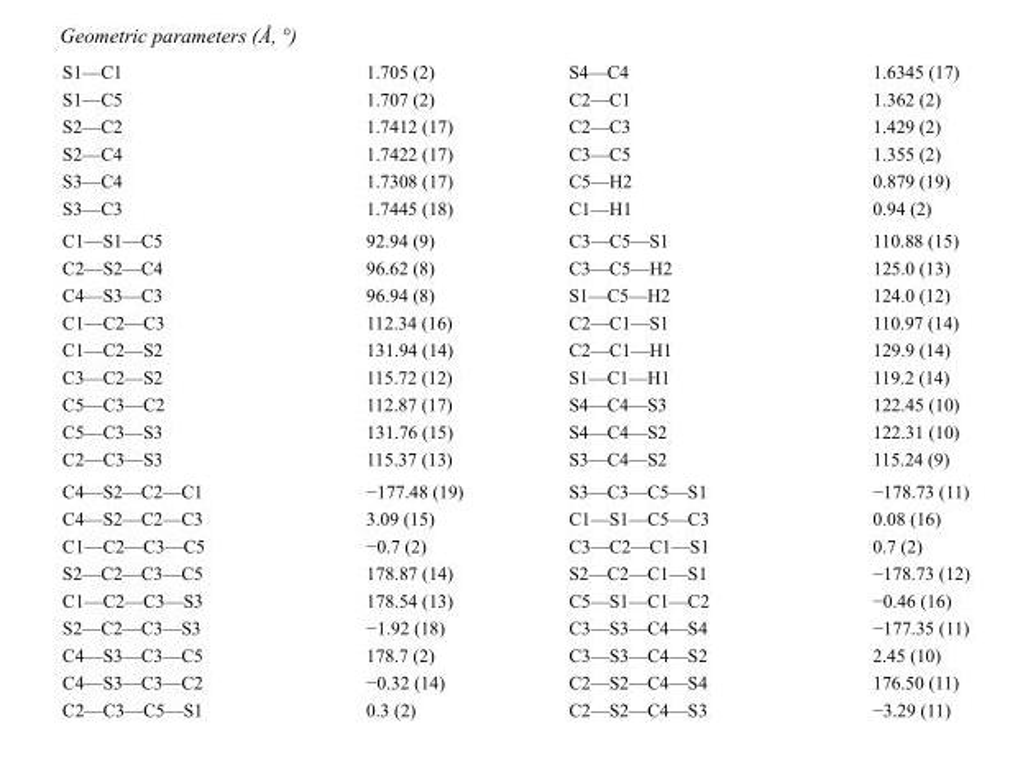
<table><tbody><tr><td>S1—C1</td><td>1.705 (2)</td><td>S4—C4</td><td>1.6345 (17)</td></tr><tr><td>S1—C5</td><td>1.707 (2)</td><td>C2—C1</td><td>1.362 (2)</td></tr><tr><td>S2—C2</td><td>1.7412 (17)</td><td>C2—C3</td><td>1.429 (2)</td></tr><tr><td>S2—C4</td><td>1.7422 (17)</td><td>C3—C5</td><td>1.355 (2)</td></tr><tr><td>S3—C4</td><td>1.7308 (17)</td><td>C5—H2</td><td>0.879 (19)</td></tr><tr><td>S3—C3</td><td>1.7445 (18)</td><td>C1—H1</td><td>0.94 (2)</td></tr><tr><td>C1—S1—C5</td><td>92.94 (9)</td><td>C3—C5—S1</td><td>110.88 (15)</td></tr><tr><td>C2—S2—C4</td><td>96.62 (8)</td><td>C3—C5—H2</td><td>125.0 (13)</td></tr><tr><td>C4—S3—C3</td><td>96.94 (8)</td><td>S1—C5—H2</td><td>124.0 (12)</td></tr><tr><td>C1—C2—C3</td><td>112.34 (16)</td><td>C2—C1—S1</td><td>110.97 (14)</td></tr><tr><td>C1—C2—S2</td><td>131.94 (14)</td><td>C2—C1—H1</td><td>129.9 (14)</td></tr><tr><td>C3—C2—S2</td><td>115.72 (12)</td><td>S1—C1—H1</td><td>119.2 (14)</td></tr><tr><td>C5—C3—C2</td><td>112.87 (17)</td><td>S4—C4—S3</td><td>122.45 (10)</td></tr><tr><td>C5—C3—S3</td><td>131.76 (15)</td><td>S4—C4—S2</td><td>122.31 (10)</td></tr><tr><td>C2—C3—S3</td><td>115.37 (13)</td><td>S3—C4—S2</td><td>115.24 (9)</td></tr><tr><td>C4—S2—C2—C1</td><td>−177.48 (19)</td><td>S3—C3—C5—S1</td><td>−178.73 (11)</td></tr><tr><td>C4—S2—C2—C3</td><td>3.09 (15)</td><td>C1—S1—C5—C3</td><td>0.08 (16)</td></tr><tr><td>C1—C2—C3—C5</td><td>−0.7 (2)</td><td>C3—C2—C1—S1</td><td>0.7 (2)</td></tr><tr><td>S2—C2—C3—C5</td><td>178.87 (14)</td><td>S2—C2—C1—S1</td><td>−178.73 (12)</td></tr><tr><td>C1—C2—C3—S3</td><td>178.54 (13)</td><td>C5—S1—C1—C2</td><td>−0.46 (16)</td></tr><tr><td>S2—C2—C3—S3</td><td>−1.92 (18)</td><td>C3—S3—C4—S4</td><td>−177.35 (11)</td></tr><tr><td>C4—S3—C3—C5</td><td>178.7 (2)</td><td>C3—S3—C4—S2</td><td>2.45 (10)</td></tr><tr><td>C4—S3—C3—C2</td><td>−0.32 (14)</td><td>C2—S2—C4—S4</td><td>176.50 (11)</td></tr><tr><td>C2—C3—C5—S1</td><td>0.3 (2)</td><td>C2—S2—C4—S3</td><td>−3.29 (11)</td></tr></tbody></table>